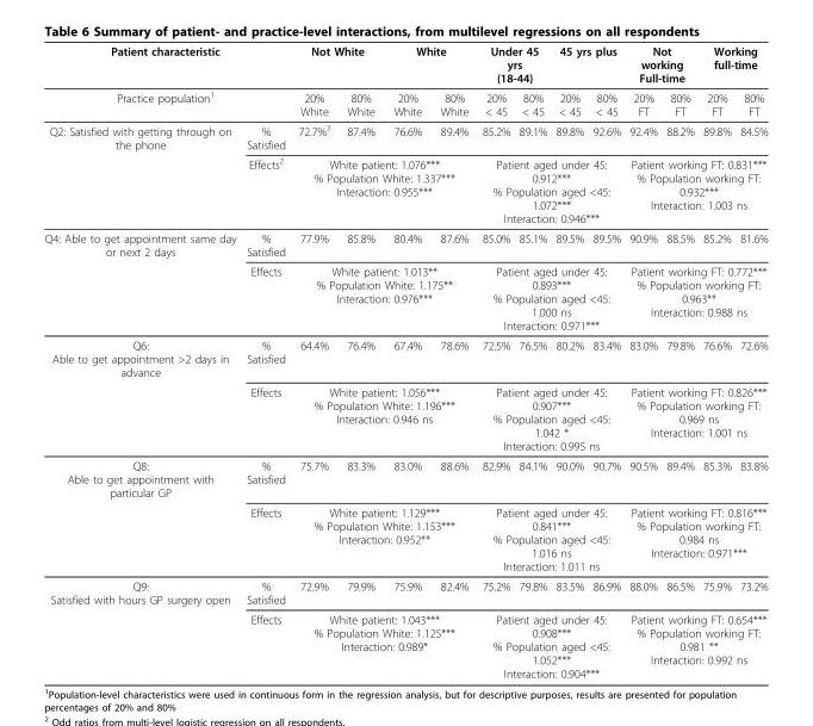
<table><thead><tr><td rowspan="2" colspan="2">Patient characteristic Practice population1</td><td colspan="2">Not White</td><td colspan="2">White</td><td colspan="2">Under 45 yrs (18-44)</td><td colspan="2">45 yrs plus</td><td colspan="2">Not working Full-time</td><td colspan="2">Working full-time</td></tr><tr><td rowspan="2">20% White 72.7%3</td><td rowspan="2">80% White 87.4%</td><td rowspan="2">20% White 76.6%</td><td rowspan="2">80% White 89.4%</td><td rowspan="2">20% &lt; 45 85.2%</td><td rowspan="2">80% &lt; 45 89.1%</td><td rowspan="2">20% &lt; 45 89.8%</td><td rowspan="2">80% &lt; 45 92.6%</td><td rowspan="2">20% FT 92.4%</td><td rowspan="2">80% FT 88.2%</td><td rowspan="2">20% FT 89.8%</td><td rowspan="2">80% FT 84.5%</td></tr><tr><td>Q2: Satisfied with getting through on the phone</td><td>% Satisfied</td></tr></thead><tbody><tr><td></td><td>Effects2</td><td colspan="4">White patient: 1.076*** % Population White: 1.337*** Interaction: 0.955***</td><td colspan="4">Patient aged under 45: 0.912*** % Population aged &lt;45: 1.072*** Interaction: 0.946***</td><td colspan="4">Patient working FT: 0.831*** % Population working FT: 0.932*** Interaction: 1.003 ns</td></tr><tr><td rowspan="2">Q4: Able to get appointment same day or next 2 days</td><td>% Satisfied</td><td>77.9%</td><td>85.8%</td><td>80.4%</td><td>87.6%</td><td>85.0%</td><td>85.1%</td><td>89.5%</td><td>89.5%</td><td>90.9%</td><td>88.5%</td><td>85.2%</td><td>81.6%</td></tr><tr><td>Effects</td><td colspan="4">White patient: 1.013** % Population White: 1.175** Interaction: 0.976***</td><td colspan="4">Patient aged under 45: 0.893*** % Population aged &lt;45: 1.000 ns Interaction: 0.971***</td><td colspan="4">Patient working FT: 0.772*** % Population working FT: 0.963** Interaction: 0.988 ns</td></tr><tr><td rowspan="2">Q6: Able to get appointment &gt;2 days in advance</td><td>% Satisfied</td><td>64.4%</td><td>76.4%</td><td>67.4%</td><td>78.6%</td><td>72.5%</td><td>76.5%</td><td>80.2%</td><td>83.4%</td><td>83.0%</td><td>79.8%</td><td>76.6%</td><td>72.6%</td></tr><tr><td>Effects</td><td colspan="4">White patient: 1.056*** % Population White: 1.196*** Interaction: 0.946 ns</td><td colspan="4">Patient aged under 45: 0.907*** % Population aged &lt;45: 1.042 * Interaction: 0.995 ns</td><td colspan="4">Patient working FT: 0.826*** % Population working FT: 0.969 ns Interaction: 1.001 ns</td></tr><tr><td rowspan="2">Q8: Able to get appointment with particular GP</td><td>% Satisfied</td><td>75.7%</td><td>83.3%</td><td>83.0%</td><td>88.6%</td><td>82.9%</td><td>84.1%</td><td>90.0%</td><td>90.7%</td><td>90.5%</td><td>89.4%</td><td>85.3%</td><td>83.8%</td></tr><tr><td>Effects</td><td colspan="4">White patient: 1.129*** % Population White: 1.153*** Interaction: 0.952**</td><td colspan="4">Patient aged under 45: 0.841*** % Population aged &lt;45: 1.016 ns Interaction: 1.011 ns</td><td colspan="4">Patient working FT: 0.816*** % Population working FT: 0.984 ns Interaction: 0.971***</td></tr><tr><td rowspan="2">Q9: Satisfied with hours GP surgery open</td><td>% Satisfied</td><td>72.9%</td><td>79.9%</td><td>75.9%</td><td>82.4%</td><td>75.2%</td><td>79.8%</td><td>83.5%</td><td>86.9%</td><td>88.0%</td><td>86.5%</td><td>75.9%</td><td>73.2%</td></tr><tr><td>Effects</td><td colspan="4">White patient: 1.043*** % Population White: 1.125*** Interaction: 0.989*</td><td colspan="4">Patient aged under 45: 0.908*** % Population aged &lt;45: 1.052*** Interaction: 0.904***</td><td colspan="4">Patient working FT: 0.654*** % Population working FT: 0.981 ** Interaction: 0.992 ns</td></tr></tbody></table>